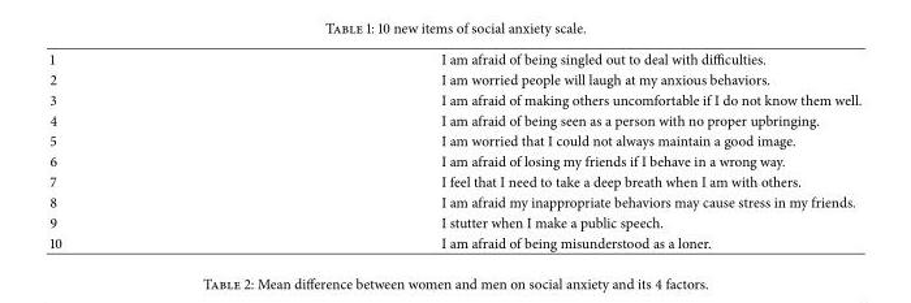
<table><tbody><tr><td>1</td><td>I am afraid of being singled out to deal with difficulties.</td></tr><tr><td>2</td><td>I am worried people will laugh at my anxious behaviors.</td></tr><tr><td>3</td><td>I am afraid of making others uncomfortable if I do not know them well.</td></tr><tr><td>4</td><td>I am afraid of being seen as a person with no proper upbringing.</td></tr><tr><td>5</td><td>I am worried that I could not always maintain a good image.</td></tr><tr><td>6</td><td>I am afraid of losing my friends if I behave in a wrong way.</td></tr><tr><td>7</td><td>I feel that I need to take a deep breath when I am with others.</td></tr><tr><td>8</td><td>I am afraid my inappropriate behaviors may cause stress in my friends.</td></tr><tr><td>9</td><td>I stutter when I make a public speech.</td></tr><tr><td>10</td><td>I am afraid of being misunderstood as a loner.</td></tr></tbody></table>